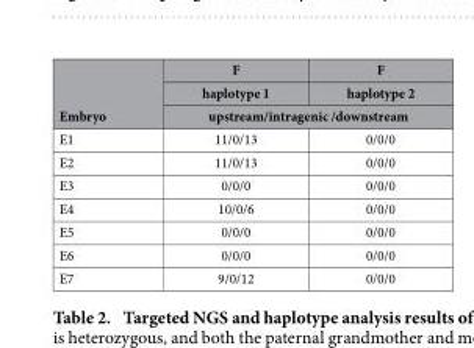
<table><thead><tr><td rowspan="3">Embryo</td><td rowspan="2">F haplotype 1</td><td rowspan="2">F haplotype 2</td></tr><tr></tr><tr><td colspan="2">upstream/intragenic /downstream</td></tr></thead><tbody><tr><td>E1</td><td>11/0/13</td><td>0/0/0</td></tr><tr><td>E2</td><td>11/0/13</td><td>0/0/0</td></tr><tr><td>E3</td><td>0/0/0</td><td>0/0/0</td></tr><tr><td>E4</td><td>10/0/6</td><td>0/0/0</td></tr><tr><td>E5</td><td>0/0/0</td><td>0/0/0</td></tr><tr><td>E6</td><td>0/0/0</td><td>0/0/0</td></tr><tr><td>E7</td><td>9/0/12</td><td>0/0/0</td></tr></tbody></table>